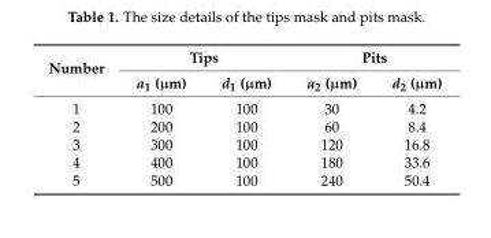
<table><thead><tr><td rowspan="2">Number</td><td colspan="2">Tips</td><td colspan="2">Pits</td></tr><tr><td>a<sub>1</sub> (µm)</td><td>d<sub>1</sub> (µm)</td><td>a<sub>2</sub> (µm)</td><td>d<sub>2</sub> (µm)</td></tr></thead><tbody><tr><td>1</td><td>100</td><td>100</td><td>30</td><td>4.2</td></tr><tr><td>2</td><td>200</td><td>100</td><td>60</td><td>8.4</td></tr><tr><td>3</td><td>300</td><td>100</td><td>120</td><td>16.8</td></tr><tr><td>4</td><td>400</td><td>100</td><td>180</td><td>33.6</td></tr><tr><td>5</td><td>500</td><td>100</td><td>240</td><td>50.4</td></tr></tbody></table>